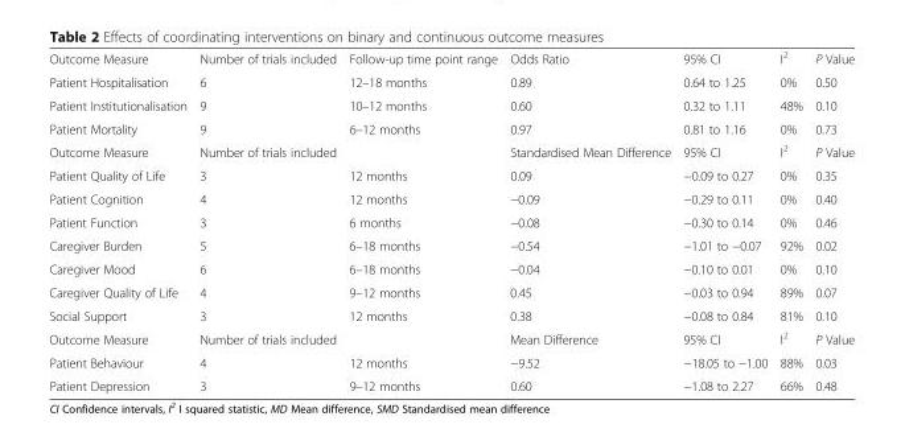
<table><tbody><tr><td>Outcome Measure</td><td>Number of trials included</td><td>Follow-up time point range</td><td>Odds Ratio</td><td>95% CI</td><td>I<sup>2</sup></td><td>P Value</td></tr><tr><td>Patient Hospitalisation</td><td>6</td><td>12–18 months</td><td>0.89</td><td>0.64 to 1.25</td><td>0%</td><td>0.50</td></tr><tr><td>Patient Institutionalisation</td><td>9</td><td>10–12 months</td><td>0.60</td><td>0.32 to 1.11</td><td>48%</td><td>0.10</td></tr><tr><td>Patient Mortality</td><td>9</td><td>6–12 months</td><td>0.97</td><td>0.81 to 1.16</td><td>0%</td><td>0.73</td></tr><tr><td>Outcome Measure</td><td>Number of trials included</td><td></td><td>Standardised Mean Difference</td><td>95% CI</td><td>I<sup>2</sup></td><td>P Value</td></tr><tr><td>Patient Quality of Life</td><td>3</td><td>12 months</td><td>0.09</td><td>−0.09 to 0.27</td><td>0%</td><td>0.35</td></tr><tr><td>Patient Cognition</td><td>4</td><td>12 months</td><td>−0.09</td><td>−0.29 to 0.11</td><td>0%</td><td>0.40</td></tr><tr><td>Patient Function</td><td>3</td><td>6 months</td><td>−0.08</td><td>−0.30 to 0.14</td><td>0%</td><td>0.46</td></tr><tr><td>Caregiver Burden</td><td>5</td><td>6–18 months</td><td>−0.54</td><td>−1.01 to −0.07</td><td>92%</td><td>0.02</td></tr><tr><td>Caregiver Mood</td><td>6</td><td>6–18 months</td><td>−0.04</td><td>−0.10 to 0.01</td><td>0%</td><td>0.10</td></tr><tr><td>Caregiver Quality of Life</td><td>4</td><td>9–12 months</td><td>0.45</td><td>−0.03 to 0.94</td><td>89%</td><td>0.07</td></tr><tr><td>Social Support</td><td>3</td><td>12 months</td><td>0.38</td><td>−0.08 to 0.84</td><td>81%</td><td>0.10</td></tr><tr><td>Outcome Measure</td><td>Number of trials included</td><td></td><td>Mean Difference</td><td>95% CI</td><td>I<sup>2</sup></td><td>P Value</td></tr><tr><td>Patient Behaviour</td><td>4</td><td>12 months</td><td>−9.52</td><td>−18.05 to −1.00</td><td>88%</td><td>0.03</td></tr><tr><td>Patient Depression</td><td>3</td><td>9–12 months</td><td>0.60</td><td>−1.08 to 2.27</td><td>66%</td><td>0.48</td></tr></tbody></table>